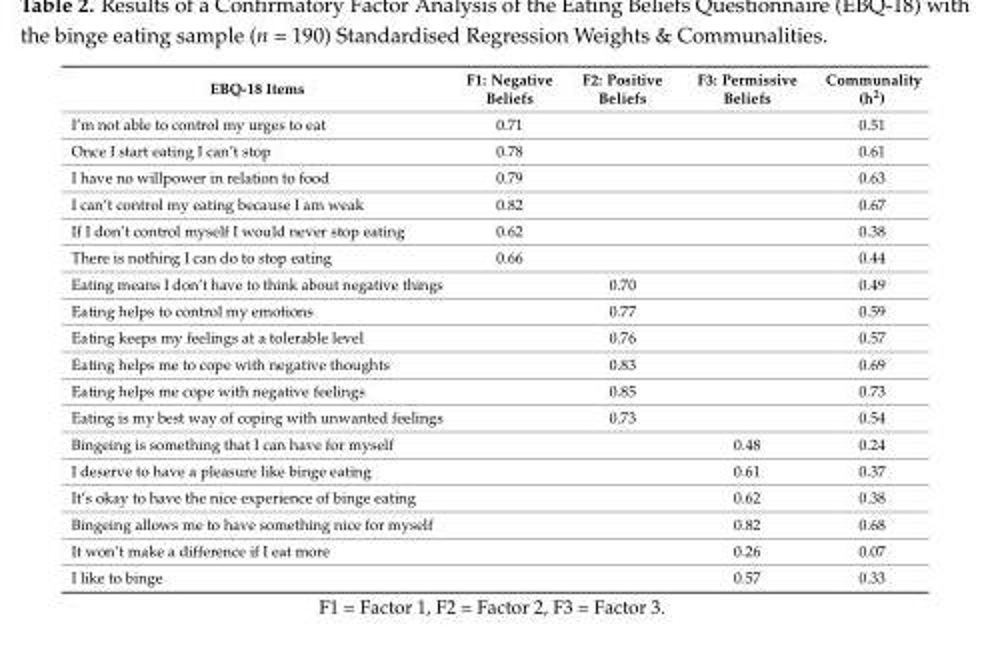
<table><thead><tr><td>EBQ-18 Items</td><td>F1: Negative Beliefs</td><td>F2: Positive Beliefs</td><td>F3: Permissive Beliefs</td><td>Communality (h<sup>2</sup>)</td></tr></thead><tbody><tr><td>I’m not able to control my urges to eat</td><td>0.71</td><td></td><td></td><td>0.51</td></tr><tr><td>Once I start eating I can’t stop</td><td>0.78</td><td></td><td></td><td>0.61</td></tr><tr><td>I have no willpower in relation to food</td><td>0.79</td><td></td><td></td><td>0.63</td></tr><tr><td>I can’t control my eating because I am weak</td><td>0.82</td><td></td><td></td><td>0.67</td></tr><tr><td>If I don’t control myself I would never stop eating</td><td>0.62</td><td></td><td></td><td>0.38</td></tr><tr><td>There is nothing I can do to stop eating</td><td>0.66</td><td></td><td></td><td>0.44</td></tr><tr><td>Eating means I don’t have to think about negative things</td><td></td><td>0.70</td><td></td><td>0.49</td></tr><tr><td>Eating helps to control my emotions</td><td></td><td>0.77</td><td></td><td>0.59</td></tr><tr><td>Eating keeps my feelings at a tolerable level</td><td></td><td>0.76</td><td></td><td>0.57</td></tr><tr><td>Eating helps me to cope with negative thoughts</td><td></td><td>0.83</td><td></td><td>0.69</td></tr><tr><td>Eating helps me cope with negative feelings</td><td></td><td>0.85</td><td></td><td>0.73</td></tr><tr><td>Eating is my best way of coping with unwanted feelings</td><td></td><td>0.73</td><td></td><td>0.54</td></tr><tr><td>Bingeing is something that I can have for myself</td><td></td><td></td><td>0.48</td><td>0.24</td></tr><tr><td>I deserve to have a pleasure like binge eating</td><td></td><td></td><td>0.61</td><td>0.37</td></tr><tr><td>It’s okay to have the nice experience of binge eating</td><td></td><td></td><td>0.62</td><td>0.38</td></tr><tr><td>Bingeing allows me to have something nice for myself</td><td></td><td></td><td>0.82</td><td>0.68</td></tr><tr><td>It won’t make a difference if I eat more</td><td></td><td></td><td>0.26</td><td>0.07</td></tr><tr><td>I like to binge</td><td></td><td></td><td>0.57</td><td>0.33</td></tr></tbody></table>